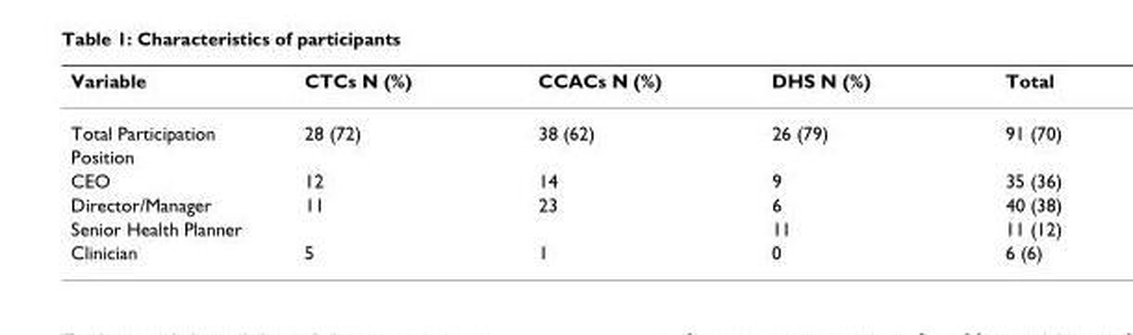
<table><thead><tr><td>Variable</td><td>CTCs N (%)</td><td>CCACs N (%)</td><td>DHS N (%)</td><td>Total</td></tr></thead><tbody><tr><td>Total Participation</td><td>28 (72)</td><td>38 (62)</td><td>26 (79)</td><td>91 (70)</td></tr><tr><td colspan="5">Position</td></tr><tr><td>CEO</td><td>12</td><td>14</td><td>9</td><td>35 (36)</td></tr><tr><td>Director/Manager</td><td>11</td><td>23</td><td>6</td><td>40 (38)</td></tr><tr><td>Senior Health Planner</td><td></td><td></td><td>11</td><td>11 (12)</td></tr><tr><td>Clinician</td><td>5</td><td>1</td><td>0</td><td>6 (6)</td></tr></tbody></table>